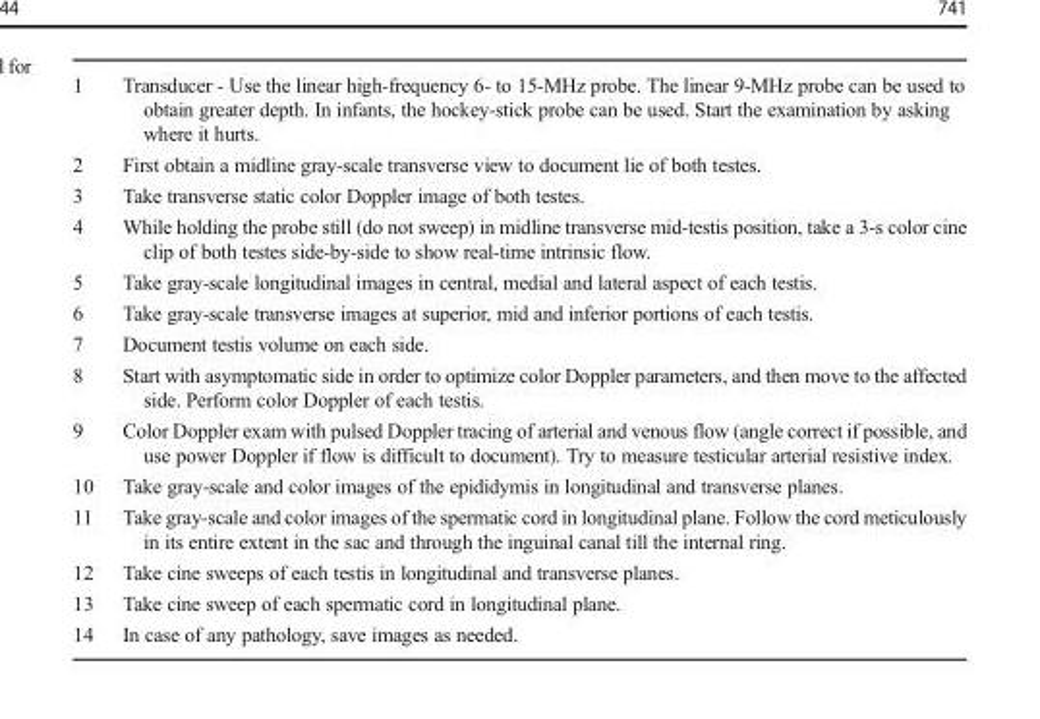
<table><tbody><tr><td>1</td><td>Transducer - Use the linear high-frequency 6- to 15-MHz probe. The linear 9-MHz probe can be used to obtain greater depth. In infants, the hockey-stick probe can be used. Start the examination by asking where it hurts.</td></tr><tr><td>2</td><td>First obtain a midline gray-scale transverse view to document lie of both testes.</td></tr><tr><td>3</td><td>Take transverse static color Doppler image of both testes.</td></tr><tr><td>4</td><td>While holding the probe still (do not sweep) in midline transverse mid-testis position, take a 3-s color cine clip of both testes side-by-side to show real-time intrinsic flow.</td></tr><tr><td>5</td><td>Take gray-scale longitudinal images in central, medial and lateral aspect of each testis.</td></tr><tr><td>6</td><td>Take gray-scale transverse images at superior, mid and inferior portions of each testis.</td></tr><tr><td>7</td><td>Document testis volume on each side.</td></tr><tr><td>8</td><td>Start with asymptomatic side in order to optimize color Doppler parameters, and then move to the affected side. Perform color Doppler of each testis.</td></tr><tr><td>9</td><td>Color Doppler exam with pulsed Doppler tracing of arterial and venous flow (angle correct if possible, and use power Doppler if flow is difficult to document). Try to measure testicular arterial resistive index.</td></tr><tr><td>10</td><td>Take gray-scale and color images of the epididymis in longitudinal and transverse planes.</td></tr><tr><td>11</td><td>Take gray-scale and color images of the spermatic cord in longitudinal plane. Follow the cord meticulously in its entire extent in the sac and through the inguinal canal till the internal ring.</td></tr><tr><td>12</td><td>Take cine sweeps of each testis in longitudinal and transverse planes.</td></tr><tr><td>13</td><td>Take cine sweep of each spermatic cord in longitudinal plane.</td></tr><tr><td>14</td><td>In case of any pathology, save images as needed.</td></tr></tbody></table>